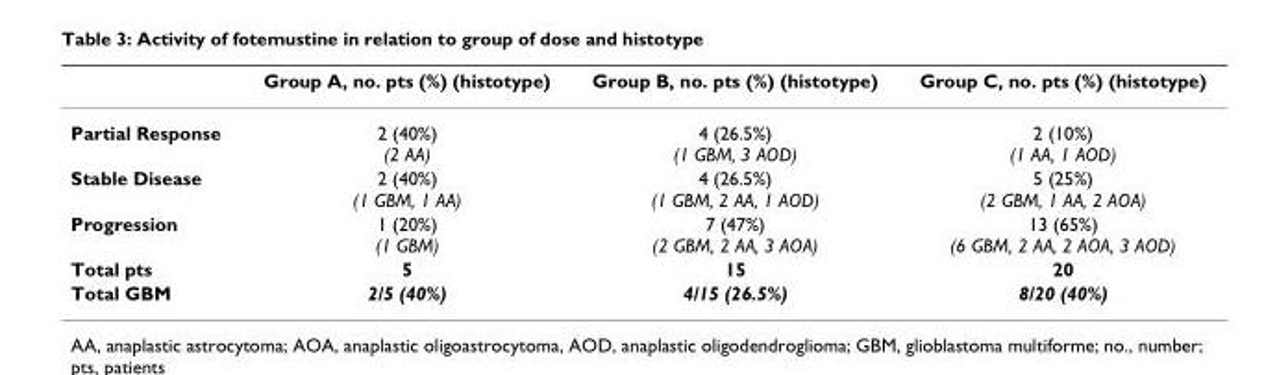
<table><thead><tr><td></td><td>Group A, no. pts (%) (histotype)</td><td>Group B, no. pts (%) (histotype)</td><td>Group C, no. pts (%) (histotype)</td></tr></thead><tbody><tr><td>Partial Response</td><td>2 (40%) (2 AA)</td><td>4 (26.5%) (1 GBM, 3 AOD)</td><td>2 (10%) (1 AA, 1 AOD)</td></tr><tr><td>Stable Disease</td><td>2 (40%) (1 GBM, 1 AA)</td><td>4 (26.5%) (1 GBM, 2 AA, 1 AOD)</td><td>5 (25%) (2 GBM, 1 AA, 2 AOA)</td></tr><tr><td>Progression</td><td>1 (20%) (1 GBM)</td><td>7 (47%) (2 GBM, 2 AA, 3 AOA)</td><td>13 (65%) (6 GBM, 2 AA, 2 AOA, 3 AOD)</td></tr><tr><td>Total pts</td><td>5</td><td>15</td><td>20</td></tr><tr><td>Total GBM</td><td>2/5 (40%)</td><td>4/15 (26.5%)</td><td>8/20 (40%)</td></tr></tbody></table>